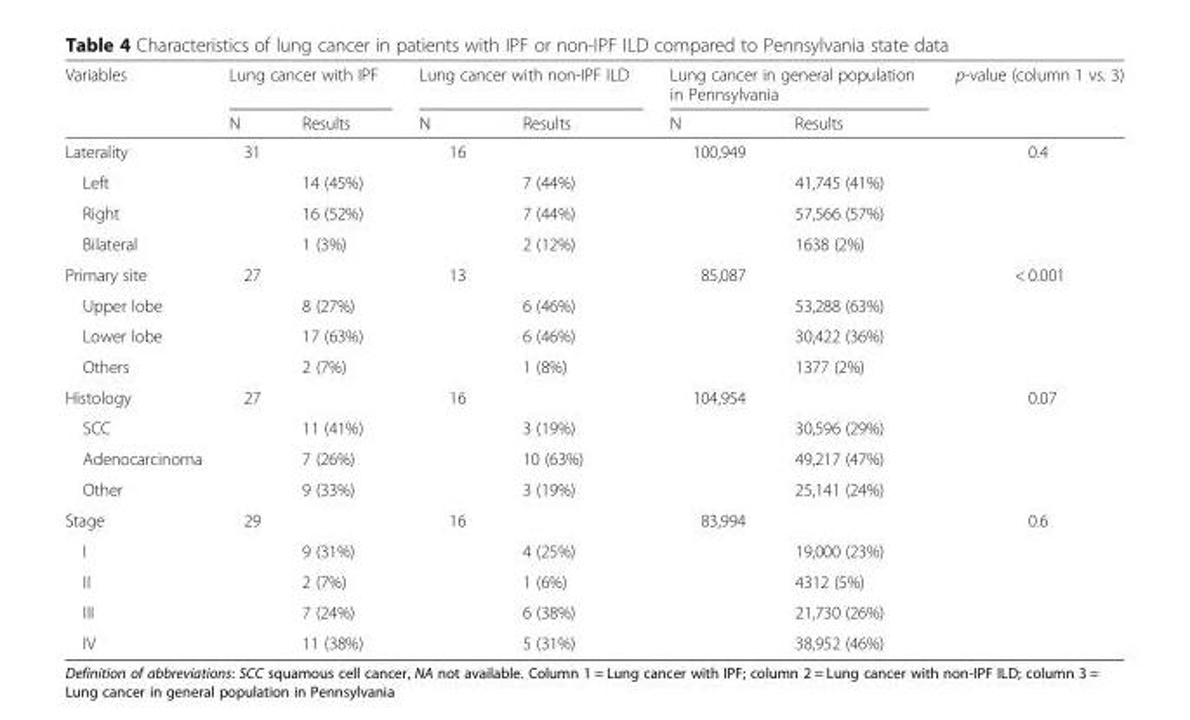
<table><thead><tr><td rowspan="2">Variables</td><td colspan="2">Lung cancer with IPF</td><td colspan="2">Lung cancer with non-IPF ILD</td><td colspan="2">Lung cancer in general population in Pennsylvania</td><td rowspan="2">p-value (column 1 vs. 3)</td></tr><tr><td>N</td><td>Results</td><td>N</td><td>Results</td><td>N</td><td>Results</td></tr></thead><tbody><tr><td>Laterality</td><td>31</td><td></td><td>16</td><td></td><td>100,949</td><td></td><td>0.4</td></tr><tr><td>Left</td><td></td><td>14 (45%)</td><td></td><td>7 (44%)</td><td></td><td>41,745 (41%)</td><td></td></tr><tr><td>Right</td><td></td><td>16 (52%)</td><td></td><td>7 (44%)</td><td></td><td>57,566 (57%)</td><td></td></tr><tr><td>Bilateral</td><td></td><td>1 (3%)</td><td></td><td>2 (12%)</td><td></td><td>1638 (2%)</td><td></td></tr><tr><td>Primary site</td><td>27</td><td></td><td>13</td><td></td><td>85,087</td><td></td><td>&lt; 0.001</td></tr><tr><td>Upper lobe</td><td></td><td>8 (27%)</td><td></td><td>6 (46%)</td><td></td><td>53,288 (63%)</td><td></td></tr><tr><td>Lower lobe</td><td></td><td>17 (63%)</td><td></td><td>6 (46%)</td><td></td><td>30,422 (36%)</td><td></td></tr><tr><td>Others</td><td></td><td>2 (7%)</td><td></td><td>1 (8%)</td><td></td><td>1377 (2%)</td><td></td></tr><tr><td>Histology</td><td>27</td><td></td><td>16</td><td></td><td>104,954</td><td></td><td>0.07</td></tr><tr><td>SCC</td><td></td><td>11 (41%)</td><td></td><td>3 (19%)</td><td></td><td>30,596 (29%)</td><td></td></tr><tr><td>Adenocarcinoma</td><td></td><td>7 (26%)</td><td></td><td>10 (63%)</td><td></td><td>49,217 (47%)</td><td></td></tr><tr><td>Other</td><td></td><td>9 (33%)</td><td></td><td>3 (19%)</td><td></td><td>25,141 (24%)</td><td></td></tr><tr><td>Stage</td><td>29</td><td></td><td>16</td><td></td><td>83,994</td><td></td><td>0.6</td></tr><tr><td>I</td><td></td><td>9 (31%)</td><td></td><td>4 (25%)</td><td></td><td>19,000 (23%)</td><td></td></tr><tr><td>II</td><td></td><td>2 (7%)</td><td></td><td>1 (6%)</td><td></td><td>4312 (5%)</td><td></td></tr><tr><td>III</td><td></td><td>7 (24%)</td><td></td><td>6 (38%)</td><td></td><td>21,730 (26%)</td><td></td></tr><tr><td>IV</td><td></td><td>11 (38%)</td><td></td><td>5 (31%)</td><td></td><td>38,952 (46%)</td><td></td></tr></tbody></table>